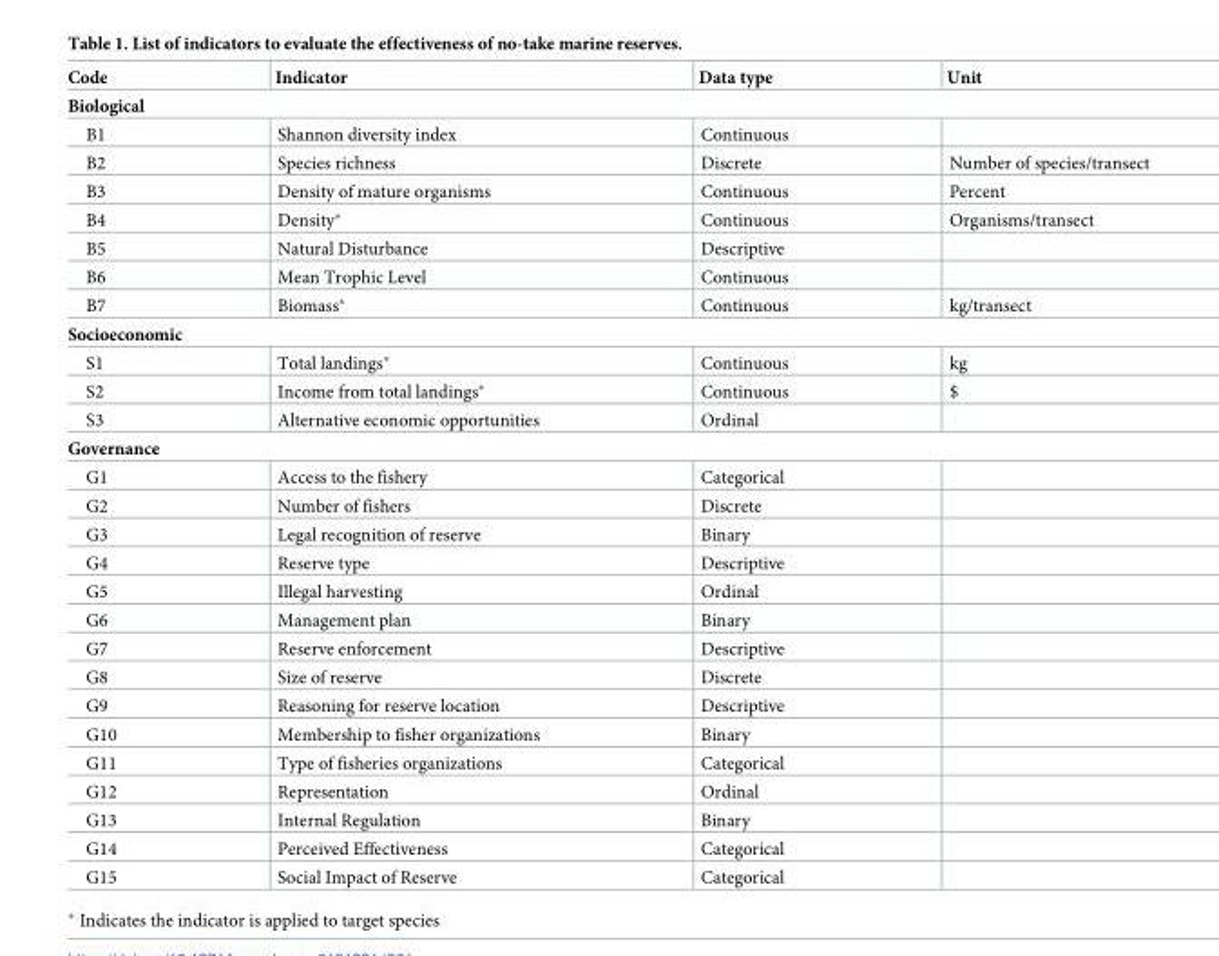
<table><thead><tr><td>Code</td><td>Indicator</td><td>Data type</td><td>Unit</td></tr></thead><tbody><tr><td colspan="4">Biological</td></tr><tr><td>B1</td><td>Shannon diversity index</td><td>Continuous</td><td></td></tr><tr><td>B2</td><td>Species richness</td><td>Discrete</td><td>Number of species/transect</td></tr><tr><td>B3</td><td>Density of mature organisms</td><td>Continuous</td><td>Percent</td></tr><tr><td>B4</td><td>Density*</td><td>Continuous</td><td>Organisms/transect</td></tr><tr><td>B5</td><td>Natural Disturbance</td><td>Descriptive</td><td></td></tr><tr><td>B6</td><td>Mean Trophic Level</td><td>Continuous</td><td></td></tr><tr><td>B7</td><td>Biomass*</td><td>Continuous</td><td>kg/transect</td></tr><tr><td colspan="4">Socioeconomic</td></tr><tr><td>S1</td><td>Total landings*</td><td>Continuous</td><td>kg</td></tr><tr><td>S2</td><td>Income from total landings*</td><td>Continuous</td><td>$</td></tr><tr><td>S3</td><td>Alternative economic opportunities</td><td>Ordinal</td><td></td></tr><tr><td colspan="4">Governance</td></tr><tr><td>G1</td><td>Access to the fishery</td><td>Categorical</td><td></td></tr><tr><td>G2</td><td>Number of fishers</td><td>Discrete</td><td></td></tr><tr><td>G3</td><td>Legal recognition of reserve</td><td>Binary</td><td></td></tr><tr><td>G4</td><td>Reserve type</td><td>Descriptive</td><td></td></tr><tr><td>G5</td><td>Illegal harvesting</td><td>Ordinal</td><td></td></tr><tr><td>G6</td><td>Management plan</td><td>Binary</td><td></td></tr><tr><td>G7</td><td>Reserve enforcement</td><td>Descriptive</td><td></td></tr><tr><td>G8</td><td>Size of reserve</td><td>Discrete</td><td></td></tr><tr><td>G9</td><td>Reasoning for reserve location</td><td>Descriptive</td><td></td></tr><tr><td>G10</td><td>Membership to fisher organizations</td><td>Binary</td><td></td></tr><tr><td>G11</td><td>Type of fisheries organizations</td><td>Categorical</td><td></td></tr><tr><td>G12</td><td>Representation</td><td>Ordinal</td><td></td></tr><tr><td>G13</td><td>Internal Regulation</td><td>Binary</td><td></td></tr><tr><td>G14</td><td>Perceived Effectiveness</td><td>Categorical</td><td></td></tr><tr><td>G15</td><td>Social Impact of Reserve</td><td>Categorical</td><td></td></tr></tbody></table>